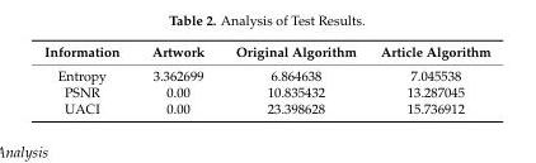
<table><thead><tr><td>Information</td><td>Artwork</td><td>Original Algorithm</td><td>Article Algorithm</td></tr></thead><tbody><tr><td>Entropy</td><td>3.362699</td><td>6.864638</td><td>7.045538</td></tr><tr><td>PSNR</td><td>0.00</td><td>10.835432</td><td>13.287045</td></tr><tr><td>UACI</td><td>0.00</td><td>23.398628</td><td>15.736912</td></tr></tbody></table>